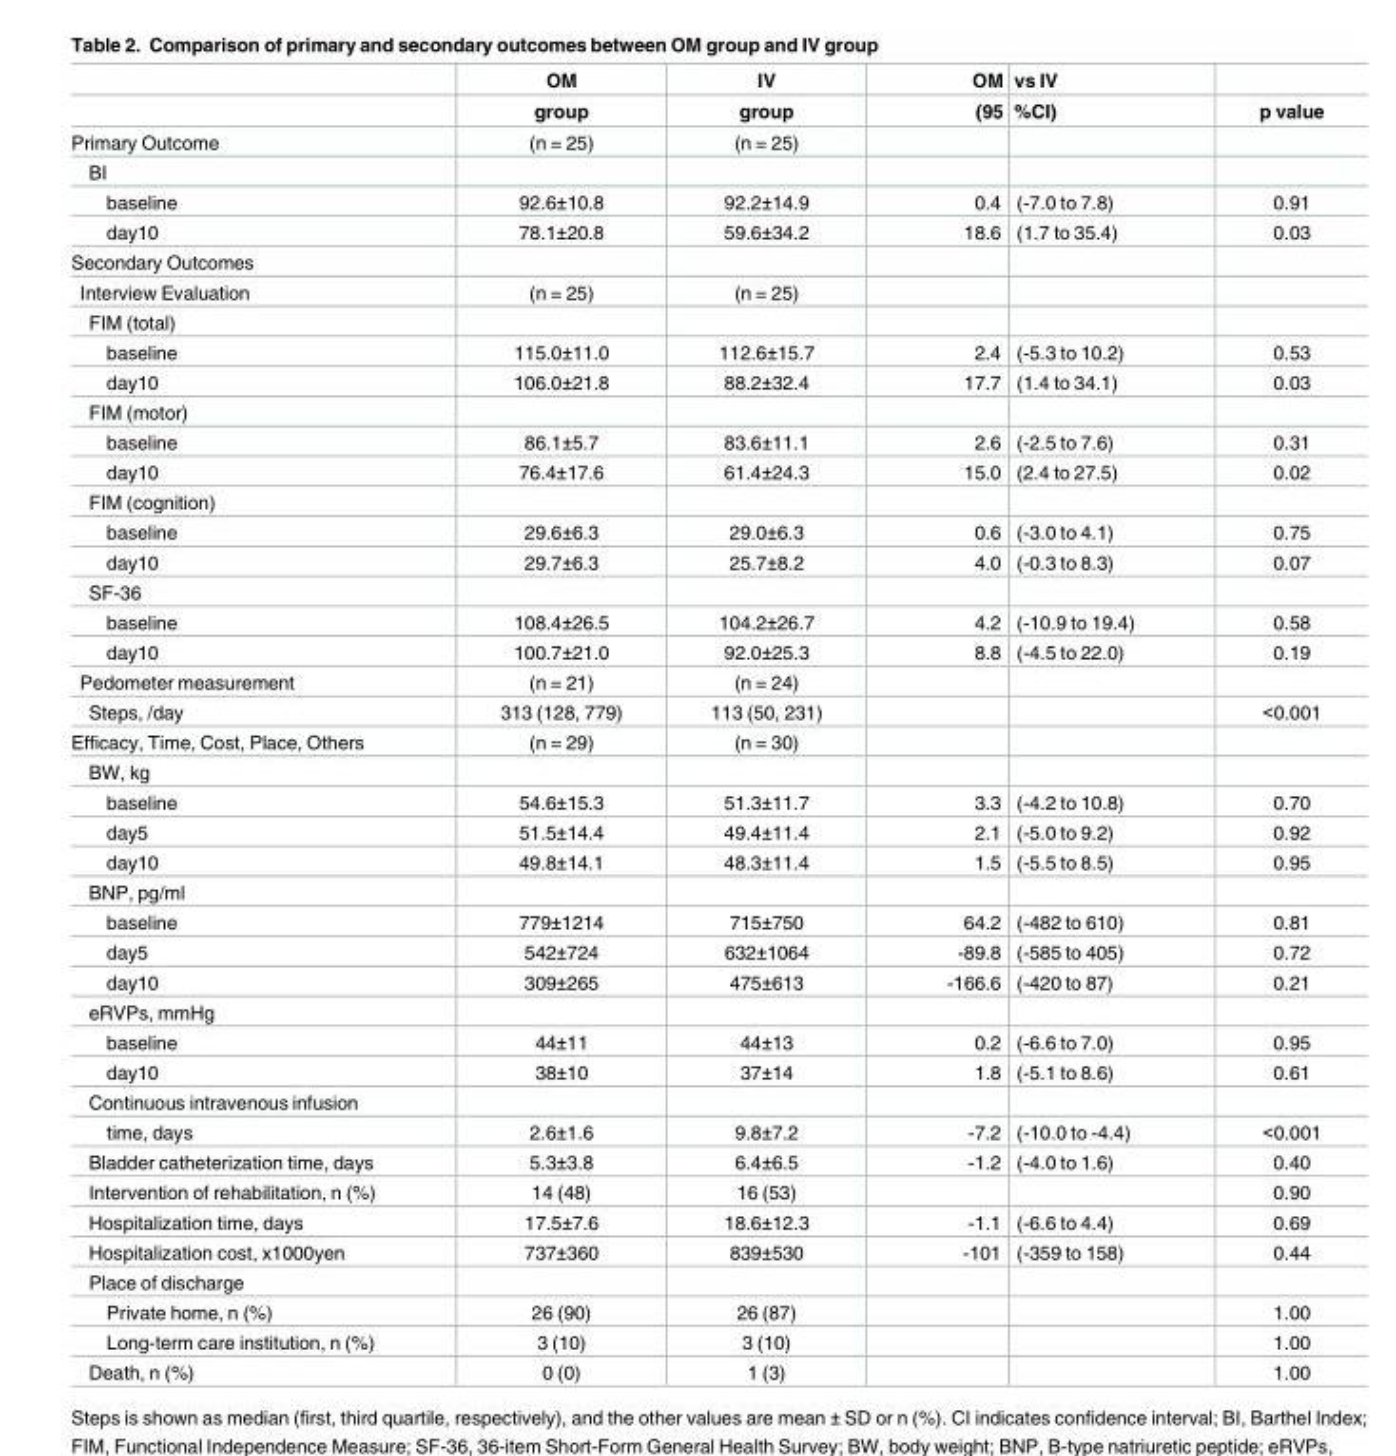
<table><thead><tr><td rowspan="2"></td><td rowspan="2">OM group</td><td rowspan="2">IV group</td><td rowspan="2">OM (95</td><td rowspan="2">vs IV %CI)</td><td rowspan="2">p value</td></tr><tr></tr></thead><tbody><tr><td>Primary Outcome</td><td>(n = 25)</td><td>(n = 25)</td><td></td><td></td><td></td></tr><tr><td colspan="6">BI</td></tr><tr><td>baseline</td><td>92.6±10.8</td><td>92.2±14.9</td><td>0.4</td><td>(-7.0 to 7.8)</td><td>0.91</td></tr><tr><td>day10</td><td>78.1±20.8</td><td>59.6±34.2</td><td>18.6</td><td>(1.7 to 35.4)</td><td>0.03</td></tr><tr><td colspan="6">Secondary Outcomes</td></tr><tr><td>Interview Evaluation</td><td>(n = 25)</td><td>(n = 25)</td><td></td><td></td><td></td></tr><tr><td colspan="6">FIM (total)</td></tr><tr><td>baseline</td><td>115.0±11.0</td><td>112.6±15.7</td><td>2.4</td><td>(-5.3 to 10.2)</td><td>0.53</td></tr><tr><td>day10</td><td>106.0±21.8</td><td>88.2±32.4</td><td>17.7</td><td>(1.4 to 34.1)</td><td>0.03</td></tr><tr><td colspan="6">FIM (motor)</td></tr><tr><td>baseline</td><td>86.1±5.7</td><td>83.6±11.1</td><td>2.6</td><td>(-2.5 to 7.6)</td><td>0.31</td></tr><tr><td>day10</td><td>76.4±17.6</td><td>61.4±24.3</td><td>15.0</td><td>(2.4 to 27.5)</td><td>0.02</td></tr><tr><td colspan="6">FIM (cognition)</td></tr><tr><td>baseline</td><td>29.6±6.3</td><td>29.0±6.3</td><td>0.6</td><td>(-3.0 to 4.1)</td><td>0.75</td></tr><tr><td>day10</td><td>29.7±6.3</td><td>25.7±8.2</td><td>4.0</td><td>(-0.3 to 8.3)</td><td>0.07</td></tr><tr><td colspan="6">SF-36</td></tr><tr><td>baseline</td><td>108.4±26.5</td><td>104.2±26.7</td><td>4.2</td><td>(-10.9 to 19.4)</td><td>0.58</td></tr><tr><td>day10</td><td>100.7±21.0</td><td>92.0±25.3</td><td>8.8</td><td>(-4.5 to 22.0)</td><td>0.19</td></tr><tr><td>Pedometer measurement</td><td>(n = 21)</td><td>(n = 24)</td><td></td><td></td><td></td></tr><tr><td>Steps, /day</td><td>313 (128, 779)</td><td>113 (50, 231)</td><td></td><td></td><td>&lt;0.001</td></tr><tr><td>Efficacy, Time, Cost, Place, Others</td><td>(n = 29)</td><td>(n = 30)</td><td></td><td></td><td></td></tr><tr><td colspan="6">BW, kg</td></tr><tr><td>baseline</td><td>54.6±15.3</td><td>51.3±11.7</td><td>3.3</td><td>(-4.2 to 10.8)</td><td>0.70</td></tr><tr><td>day5</td><td>51.5±14.4</td><td>49.4±11.4</td><td>2.1</td><td>(-5.0 to 9.2)</td><td>0.92</td></tr><tr><td>day10</td><td>49.8±14.1</td><td>48.3±11.4</td><td>1.5</td><td>(-5.5 to 8.5)</td><td>0.95</td></tr><tr><td colspan="6">BNP, pg/ml</td></tr><tr><td>baseline</td><td>779±1214</td><td>715±750</td><td>64.2</td><td>(-482 to 610)</td><td>0.81</td></tr><tr><td>day5</td><td>542±724</td><td>632±1064</td><td>-89.8</td><td>(-585 to 405)</td><td>0.72</td></tr><tr><td>day10</td><td>309±265</td><td>475±613</td><td>-166.6</td><td>(-420 to 87)</td><td>0.21</td></tr><tr><td colspan="6">eRVPs, mmHg</td></tr><tr><td>baseline</td><td>44±11</td><td>44±13</td><td>0.2</td><td>(-6.6 to 7.0)</td><td>0.95</td></tr><tr><td>day10</td><td>38±10</td><td>37±14</td><td>1.8</td><td>(-5.1 to 8.6)</td><td>0.61</td></tr><tr><td colspan="6">Continuous intravenous infusion</td></tr><tr><td>time, days</td><td>2.6±1.6</td><td>9.8±7.2</td><td>-7.2</td><td>(-10.0 to -4.4)</td><td>&lt;0.001</td></tr><tr><td>Bladder catheterization time, days</td><td>5.3±3.8</td><td>6.4±6.5</td><td>-1.2</td><td>(-4.0 to 1.6)</td><td>0.40</td></tr><tr><td>Intervention of rehabilitation, n (%)</td><td>14 (48)</td><td>16 (53)</td><td></td><td></td><td>0.90</td></tr><tr><td>Hospitalization time, days</td><td>17.5±7.6</td><td>18.6±12.3</td><td>-1.1</td><td>(-6.6 to 4.4)</td><td>0.69</td></tr><tr><td>Hospitalization cost, x1000yen</td><td>737±360</td><td>839±530</td><td>-101</td><td>(-359 to 158)</td><td>0.44</td></tr><tr><td colspan="6">Place of discharge</td></tr><tr><td>Private home, n (%)</td><td>26 (90)</td><td>26 (87)</td><td></td><td></td><td>1.00</td></tr><tr><td>Long-term care institution, n (%)</td><td>3 (10)</td><td>3 (10)</td><td></td><td></td><td>1.00</td></tr><tr><td>Death, n (%)</td><td>0 (0)</td><td>1 (3)</td><td></td><td></td><td>1.00</td></tr></tbody></table>